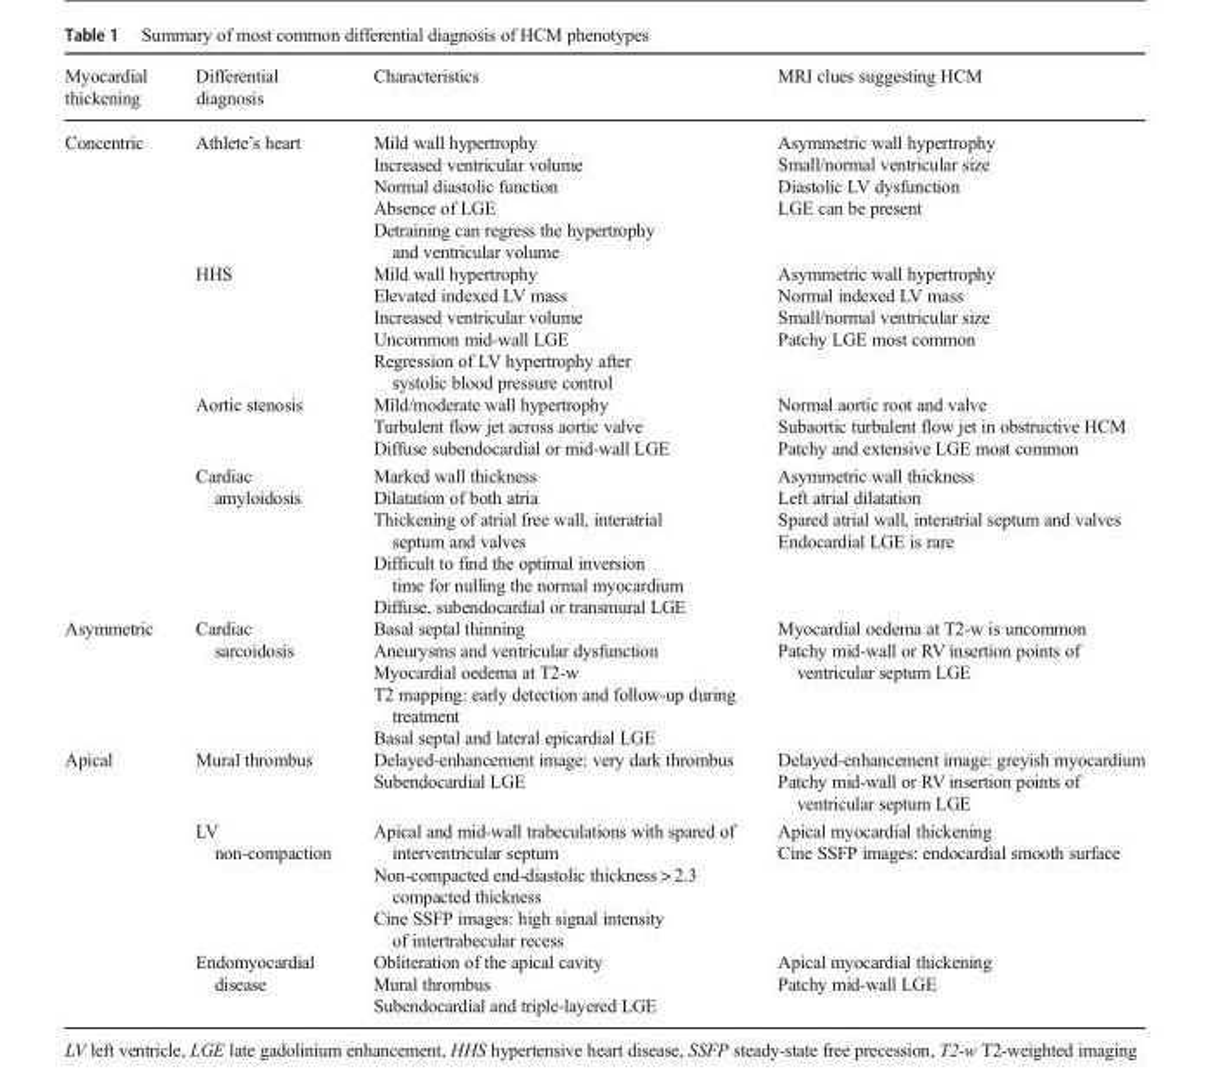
<table><thead><tr><td>Myocardial thickening</td><td>Differential diagnosis</td><td>Characteristics</td><td>MRI clues suggesting HCM</td></tr></thead><tbody><tr><td rowspan="4">Concentric</td><td>Athlete’s heart</td><td>Mild wall hypertrophy Increased ventricular volume Normal diastolic function Absence of LGE Detraining can regress the hypertrophy and ventricular volume</td><td>Asymmetric wall hypertrophy Small/normal ventricular size Diastolic LV dysfunction LGE can be present</td></tr><tr><td>HHS</td><td>Mild wall hypertrophy Elevated indexed LV mass Increased ventricular volume Uncommon mid-wall LGE Regression of LV hypertrophy after systolic blood pressure control</td><td>Asymmetric wall hypertrophy Normal indexed LV mass Small/normal ventricular size Patchy LGE most common</td></tr><tr><td>Aortic stenosis</td><td>Mild/moderate wall hypertrophy Turbulent flow jet across aortic valve Diffuse subendocardial or mid-wall LGE</td><td>Normal aortic root and valve Subaortic turbulent flow jet in obstructive HCM Patchy and extensive LGE most common</td></tr><tr><td>Cardiac amyloidosis</td><td>Marked wall thickness Dilatation of both atria Thickening of atrial free wall, interatrial septum and valves Difficult to find the optimal inversion time for nulling the normal myocardium Diffuse, subendocardial or transmural LGE</td><td>Asymmetric wall thickness Left atrial dilatation Spared atrial wall, interatrial septum and valves Endocardial LGE is rare</td></tr><tr><td>Asymmetric</td><td>Cardiac sarcoidosis</td><td>Basal septal thinning Aneurysms and ventricular dysfunction Myocardial oedema at T2-w T2 mapping: early detection and follow-up during treatment Basal septal and lateral epicardial LGE</td><td>Myocardial oedema at T2-w is uncommon Patchy mid-wall or RV insertion points of ventricular septum LGE</td></tr><tr><td rowspan="3">Apical</td><td>Mural thrombus</td><td>Delayed-enhancement image: very dark thrombus Subendocardial LGE</td><td>Delayed-enhancement image: greyish myocardium Patchy mid-wall or RV insertion points of ventricular septum LGE</td></tr><tr><td>LV non-compaction</td><td>Apical and mid-wall trabeculations with spared of interventricular septum Non-compacted end-diastolic thickness &gt; 2.3 compacted thickness Cine SSFP images: high signal intensity of intertrabecular recess</td><td>Apical myocardial thickening Cine SSFP images: endocardial smooth surface</td></tr><tr><td>Endomyocardial disease</td><td>Obliteration of the apical cavity Mural thrombus Subendocardial and triple-layered LGE</td><td>Apical myocardial thickening Patchy mid-wall LGE</td></tr></tbody></table>